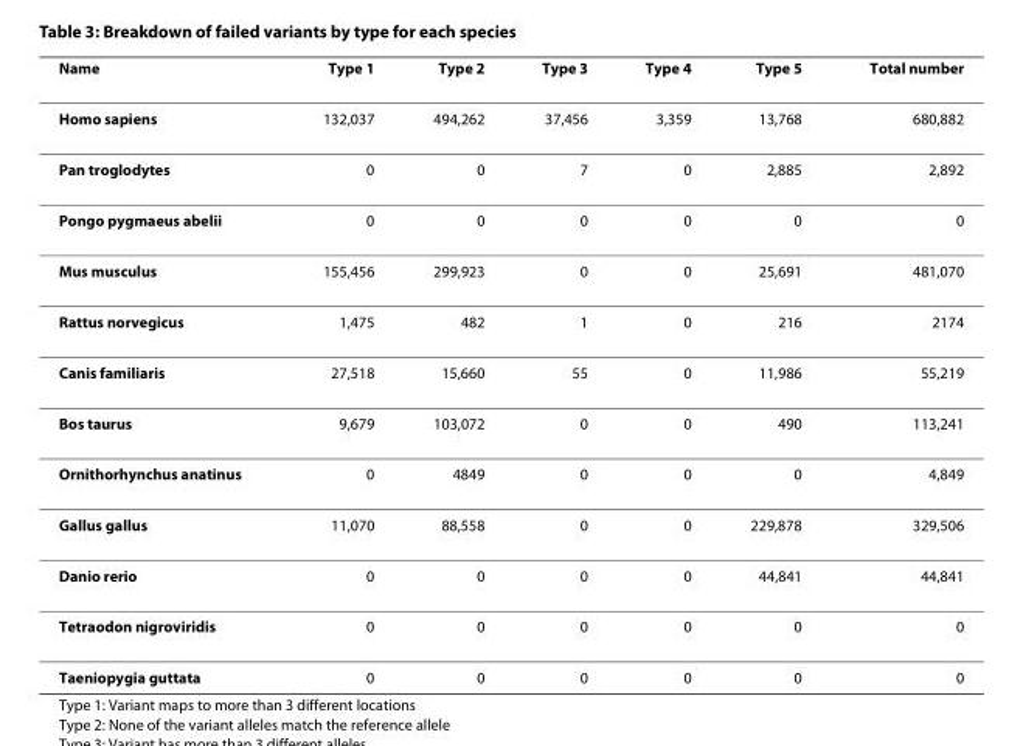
<table><thead><tr><td>Name</td><td>Type 1</td><td>Type 2</td><td>Type 3</td><td>Type 4</td><td>Type 5</td><td>Total number</td></tr></thead><tbody><tr><td>Homo sapiens</td><td>132,037</td><td>494,262</td><td>37,456</td><td>3,359</td><td>13,768</td><td>680,882</td></tr><tr><td>Pan troglodytes</td><td>0</td><td>0</td><td>7</td><td>0</td><td>2,885</td><td>2,892</td></tr><tr><td>Pongo pygmaeus abelii</td><td>0</td><td>0</td><td>0</td><td>0</td><td>0</td><td>0</td></tr><tr><td>Mus musculus</td><td>155,456</td><td>299,923</td><td>0</td><td>0</td><td>25,691</td><td>481,070</td></tr><tr><td>Rattus norvegicus</td><td>1,475</td><td>482</td><td>1</td><td>0</td><td>216</td><td>2174</td></tr><tr><td>Canis familiaris</td><td>27,518</td><td>15,660</td><td>55</td><td>0</td><td>11,986</td><td>55,219</td></tr><tr><td>Bos taurus</td><td>9,679</td><td>103,072</td><td>0</td><td>0</td><td>490</td><td>113,241</td></tr><tr><td>Ornithorhynchus anatinus</td><td>0</td><td>4849</td><td>0</td><td>0</td><td>0</td><td>4,849</td></tr><tr><td>Gallus gallus</td><td>11,070</td><td>88,558</td><td>0</td><td>0</td><td>229,878</td><td>329,506</td></tr><tr><td>Danio rerio</td><td>0</td><td>0</td><td>0</td><td>0</td><td>44,841</td><td>44,841</td></tr><tr><td>Tetraodon nigroviridis</td><td>0</td><td>0</td><td>0</td><td>0</td><td>0</td><td>0</td></tr><tr><td>Taeniopygia guttata</td><td>0</td><td>0</td><td>0</td><td>0</td><td>0</td><td>0</td></tr></tbody></table>